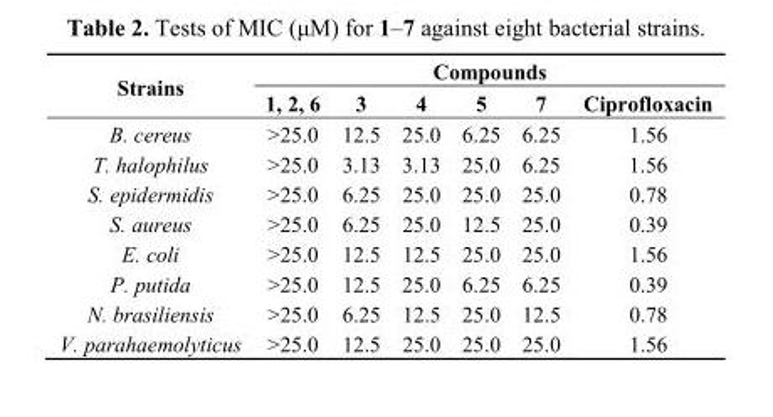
<table><thead><tr><td rowspan="2">Strains</td><td colspan="6">Compounds</td></tr><tr><td>1, 2, 6</td><td>3</td><td>4</td><td>5</td><td>7</td><td>Ciprofloxacin</td></tr></thead><tbody><tr><td>B. cereus</td><td>&gt;25.0</td><td>12.5</td><td>25.0</td><td>6.25</td><td>6.25</td><td>1.56</td></tr><tr><td>T. halophilus</td><td>&gt;25.0</td><td>3.13</td><td>3.13</td><td>25.0</td><td>6.25</td><td>1.56</td></tr><tr><td>S. epidermidis</td><td>&gt;25.0</td><td>6.25</td><td>25.0</td><td>25.0</td><td>25.0</td><td>0.78</td></tr><tr><td>S. aureus</td><td>&gt;25.0</td><td>6.25</td><td>25.0</td><td>12.5</td><td>25.0</td><td>0.39</td></tr><tr><td>E. coli</td><td>&gt;25.0</td><td>12.5</td><td>12.5</td><td>25.0</td><td>25.0</td><td>1.56</td></tr><tr><td>P. putida</td><td>&gt;25.0</td><td>12.5</td><td>25.0</td><td>6.25</td><td>6.25</td><td>0.39</td></tr><tr><td>N. brasiliensis</td><td>&gt;25.0</td><td>6.25</td><td>12.5</td><td>25.0</td><td>12.5</td><td>0.78</td></tr><tr><td>V. parahaemolyticus</td><td>&gt;25.0</td><td>12.5</td><td>25.0</td><td>25.0</td><td>25.0</td><td>1.56</td></tr></tbody></table>